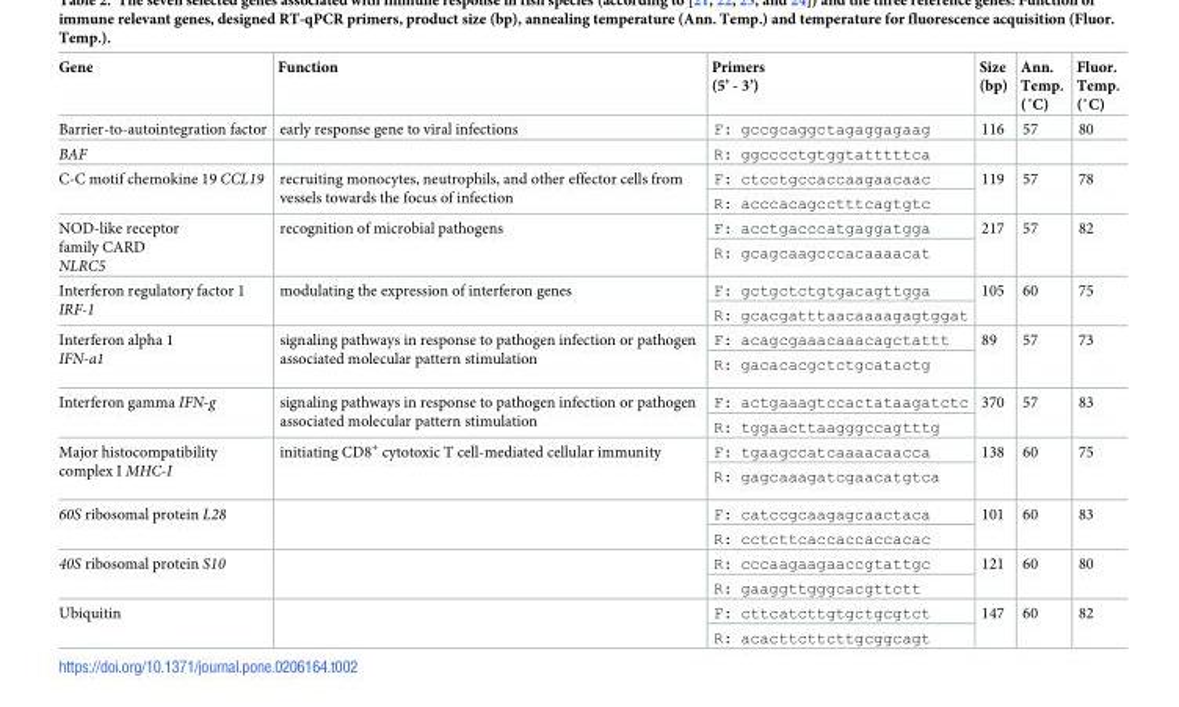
<table><thead><tr><td>Gene</td><td>Function</td><td>Primers (5’ - 3’)</td><td>Size (bp)</td><td>Ann. Temp. (˚C)</td><td>Fluor. Temp. (˚C)</td></tr></thead><tbody><tr><td>Barrier-to-autointegration factor</td><td>early response gene to viral infections</td><td>F: gccgcaggctagaggagaag</td><td>116</td><td>57</td><td>80</td></tr><tr><td>BAF</td><td></td><td>R: ggcccctgtggtatttttca</td><td></td><td></td><td></td></tr><tr><td rowspan="2">C-C motif chemokine 19 CCL19</td><td rowspan="2">recruiting monocytes, neutrophils, and other effector cells from vessels towards the focus of infection</td><td>F: ctcctgccaccaagaacaac</td><td rowspan="2">119</td><td rowspan="2">57</td><td rowspan="2">78</td></tr><tr><td>R: acccacagcctttcagtgtc</td></tr><tr><td rowspan="2">NOD-like receptor family CARD NLRC5</td><td rowspan="2">recognition of microbial pathogens</td><td>F: acctgacccatgaggatgga</td><td rowspan="2">217</td><td rowspan="2">57</td><td rowspan="2">82</td></tr><tr><td>R: gcagcaagcccacaaaacat</td></tr><tr><td rowspan="2">Interferon regulatory factor 1 IRF-1</td><td rowspan="2">modulating the expression of interferon genes</td><td>F: gctgctctgtgacagttgga</td><td rowspan="2">105</td><td rowspan="2">60</td><td rowspan="2">75</td></tr><tr><td>R: gcacgatttaacaaaagagtggat</td></tr><tr><td rowspan="2">Interferon alpha 1 IFN-a1</td><td rowspan="2">signaling pathways in response to pathogen infection or pathogen associated molecular pattern stimulation</td><td>F: acagcgaaacaaacagctattt</td><td rowspan="2">89</td><td rowspan="2">57</td><td rowspan="2">73</td></tr><tr><td>R: gacacacgctctgcatactg</td></tr><tr><td rowspan="2">Interferon gamma IFN-g</td><td rowspan="2">signaling pathways in response to pathogen infection or pathogen associated molecular pattern stimulation</td><td>F: actgaaagtccactataagatctc</td><td rowspan="2">370</td><td rowspan="2">57</td><td rowspan="2">83</td></tr><tr><td>R: tggaacttaagggccagtttg</td></tr><tr><td rowspan="2">Major histocompatibility complex I MHC-I</td><td rowspan="2">initiating CD8<sup>+</sup> cytotoxic T cell-mediated cellular immunity</td><td>F: tgaagccatcaaaacaacca</td><td rowspan="2">138</td><td rowspan="2">60</td><td rowspan="2">75</td></tr><tr><td>R: gagcaaagatcgaacatgtca</td></tr><tr><td rowspan="2">60S ribosomal protein L28</td><td rowspan="2"></td><td>F: catccgcaagagcaactaca</td><td rowspan="2">101</td><td rowspan="2">60</td><td rowspan="2">83</td></tr><tr><td>R: cctcttcaccaccaccacac</td></tr><tr><td rowspan="2">40S ribosomal protein S10</td><td rowspan="2"></td><td>R: cccaagaagaaccgtattgc</td><td rowspan="2">121</td><td rowspan="2">60</td><td rowspan="2">80</td></tr><tr><td>R: gaaggttgggcacgttctt</td></tr><tr><td rowspan="2">Ubiquitin</td><td rowspan="2"></td><td>F: cttcatcttgtgctgcgtct</td><td rowspan="2">147</td><td rowspan="2">60</td><td rowspan="2">82</td></tr><tr><td>R: acacttcttcttgcggcagt</td></tr></tbody></table>